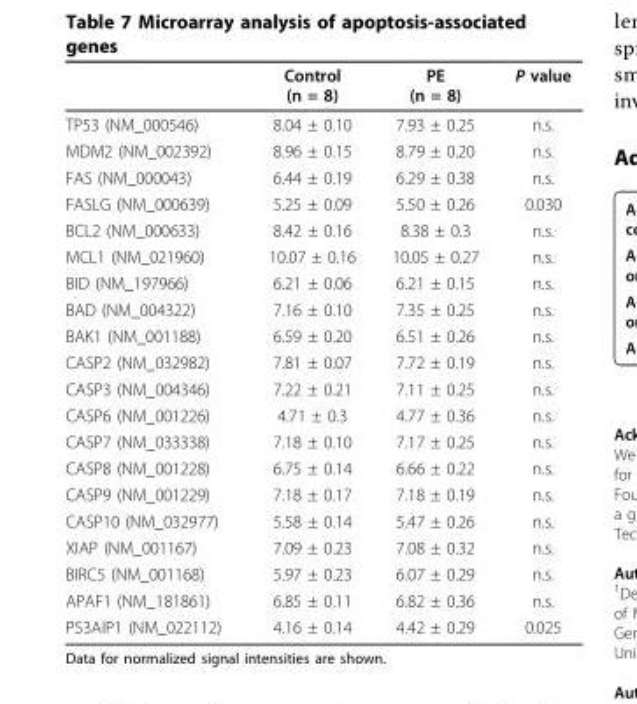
<table><thead><tr><td></td><td>Control (n = 8)</td><td>PE (n = 8)</td><td>P value</td></tr></thead><tbody><tr><td>TP53 (NM_000546)</td><td>8.04 ± 0.10</td><td>7.93 ± 0.25</td><td>n.s.</td></tr><tr><td>MDM2 (NM_002392)</td><td>8.96 ± 0.15</td><td>8.79 ± 0.20</td><td>n.s.</td></tr><tr><td>FAS (NM_000043)</td><td>6.44 ± 0.19</td><td>6.29 ± 0.38</td><td>n.s.</td></tr><tr><td>FASLG (NM_000639)</td><td>5.25 ± 0.09</td><td>5.50 ± 0.26</td><td>0.030</td></tr><tr><td>BCL2 (NM_000633)</td><td>8.42 ± 0.16</td><td>8.38 ± 0.3</td><td>n.s.</td></tr><tr><td>MCL1 (NM_021960)</td><td>10.07 ± 0.16</td><td>10.05 ± 0.27</td><td>n.s.</td></tr><tr><td>BID (NM_197966)</td><td>6.21 ± 0.06</td><td>6.21 ± 0.15</td><td>n.s.</td></tr><tr><td>BAD (NM_004322)</td><td>7.16 ± 0.10</td><td>7.35 ± 0.25</td><td>n.s.</td></tr><tr><td>BAK1 (NM_001188)</td><td>6.59 ± 0.20</td><td>6.51 ± 0.26</td><td>n.s.</td></tr><tr><td>CASP2 (NM_032982)</td><td>7.81 ± 0.07</td><td>7.72 ± 0.19</td><td>n.s.</td></tr><tr><td>CASP3 (NM_004346)</td><td>7.22 ± 0.21</td><td>7.11 ± 0.25</td><td>n.s.</td></tr><tr><td>CASP6 (NM_001226)</td><td>4.71 ± 0.3</td><td>4.77 ± 0.36</td><td>n.s.</td></tr><tr><td>CASP7 (NM_033338)</td><td>7.18 ± 0.10</td><td>7.17 ± 0.25</td><td>n.s.</td></tr><tr><td>CASP8 (NM_001228)</td><td>6.75 ± 0.14</td><td>6.66 ± 0.22</td><td>n.s.</td></tr><tr><td>CASP9 (NM_001229)</td><td>7.18 ± 0.17</td><td>7.18 ± 0.19</td><td>n.s.</td></tr><tr><td>CASP10 (NM_032977)</td><td>5.58 ± 0.14</td><td>5.47 ± 0.26</td><td>n.s.</td></tr><tr><td>XIAP (NM_001167)</td><td>7.09 ± 0.23</td><td>7.08 ± 0.32</td><td>n.s.</td></tr><tr><td>BIRC5 (NM_001168)</td><td>5.97 ± 0.23</td><td>6.07 ± 0.29</td><td>n.s.</td></tr><tr><td>APAF1 (NM_181861)</td><td>6.85 ± 0.11</td><td>6.82 ± 0.36</td><td>n.s.</td></tr><tr><td>P53AIP1 (NM_022112)</td><td>4.16 ± 0.14</td><td>4.42 ± 0.29</td><td>0.025</td></tr></tbody></table>